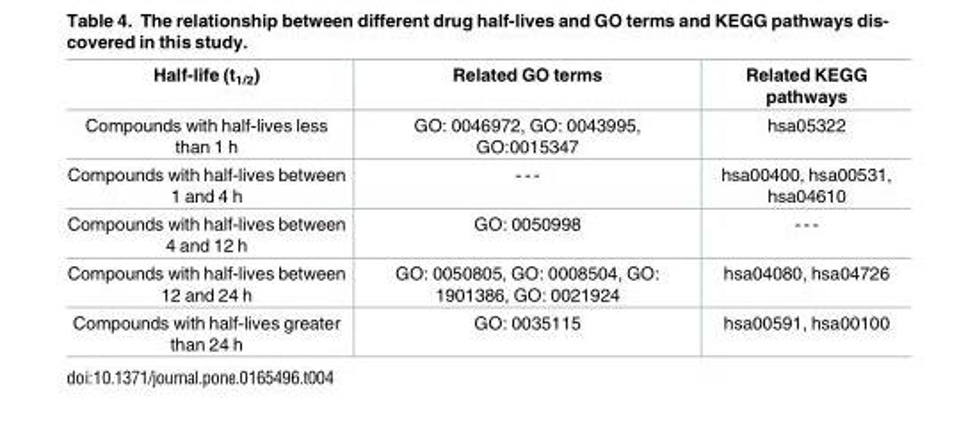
<table><thead><tr><td>Half-life (t<sub>1/2</sub>)</td><td>Related GO terms</td><td>Related KEGG pathways</td></tr></thead><tbody><tr><td>Compounds with half-lives less than 1 h</td><td>GO: 0046972, GO: 0043995, GO:0015347</td><td>hsa05322</td></tr><tr><td>Compounds with half-lives between 1 and 4 h</td><td>- - -</td><td>hsa00400, hsa00531, hsa04610</td></tr><tr><td>Compounds with half-lives between 4 and 12 h</td><td>GO: 0050998</td><td>- - -</td></tr><tr><td>Compounds with half-lives between 12 and 24 h</td><td>GO: 0050805, GO: 0008504, GO: 1901386, GO: 0021924</td><td>hsa04080, hsa04726</td></tr><tr><td>Compounds with half-lives greater than 24 h</td><td>GO: 0035115</td><td>hsa00591, hsa00100</td></tr></tbody></table>